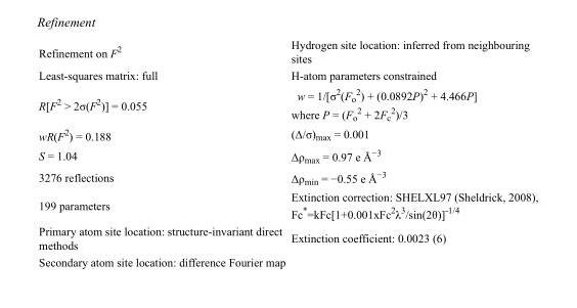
<table><tbody><tr><td>Refinement on F<sup>2</sup></td><td>Hydrogen site location: inferred from neighbouring sites</td></tr><tr><td>Least-squares matrix: full</td><td>H-atom parameters constrained</td></tr><tr><td>R[F<sup>2</sup> &gt; 2σ(F<sup>2</sup>)] = 0.055</td><td>w = 1/[σ<sup>2</sup>(F<sub>o</sub> <sup>2</sup>) + (0.0892P)<sup>2</sup> + 4.466P] where P = (F<sub>o</sub> <sup>2</sup> + 2F<sub>c</sub> <sup>2</sup>)/3</td></tr><tr><td>wR(F<sup>2</sup>) = 0.188</td><td>(Δ/σ)<sub>max</sub> = 0.001</td></tr><tr><td>S = 1.04</td><td>Δρ<sub>max</sub> = 0.97 e Å<sup>−3</sup></td></tr><tr><td>3276 reflections</td><td>Δρ<sub>min</sub> = −0.55 e Å<sup>−3</sup></td></tr><tr><td>199 parameters</td><td>Extinction correction: SHELXL97 (Sheldrick, 2008), Fc*=kFc[1+0.001xFc<sup>2</sup>λ<sup>3</sup>/sin(2θ)]<sup>-1/4</sup></td></tr><tr><td>Primary atom site location: structure-invariant direct methods</td><td>Extinction coefficient: 0.0023 (6)</td></tr><tr><td>Secondary atom site location: difference Fourier map</td><td></td></tr></tbody></table>